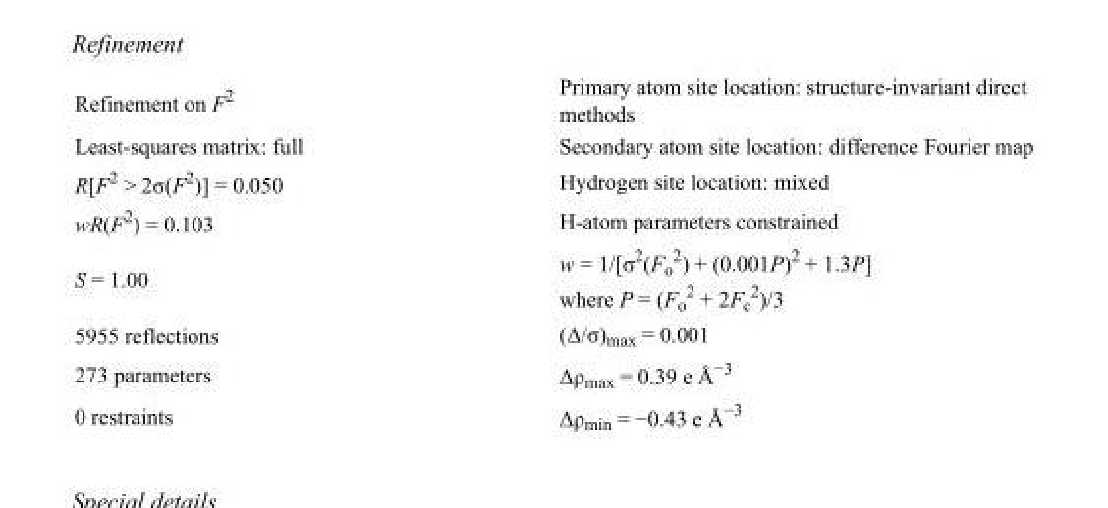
<table><tbody><tr><td>Refinement on F<sup>2</sup></td><td>Primary atom site location: structure-invariant direct methods</td></tr><tr><td>Least-squares matrix: full</td><td>Secondary atom site location: difference Fourier map</td></tr><tr><td>R[F<sup>2</sup> &gt; 2σ(F<sup>2</sup>)] = 0.050</td><td>Hydrogen site location: mixed</td></tr><tr><td>wR(F<sup>2</sup>) = 0.103</td><td>H-atom parameters constrained</td></tr><tr><td>S = 1.00</td><td>w = 1/[σ<sup>2</sup>(F<sub>o</sub> <sup>2</sup>) + (0.001P)<sup>2</sup> + 1.3P] where P = (F<sub>o</sub> <sup>2</sup> + 2F<sub>c</sub> <sup>2</sup>)/3</td></tr><tr><td>5955 reflections</td><td>(Δ/σ)<sub>max</sub> = 0.001</td></tr><tr><td>273 parameters</td><td>Δρ<sub>max</sub> = 0.39 e Å<sup>−3</sup></td></tr><tr><td>0 restraints</td><td>Δρ<sub>min</sub> = −0.43 e Å<sup>−3</sup></td></tr></tbody></table>